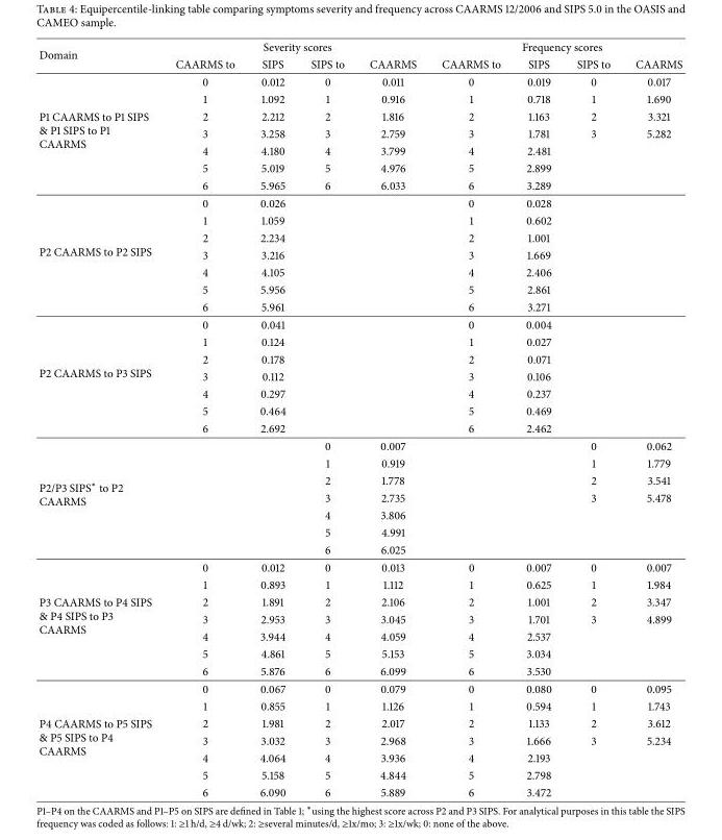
<table><thead><tr><td rowspan="2">Domain</td><td colspan="4">Severity scores</td><td colspan="4">Frequency scores</td></tr><tr><td>CAARMS to</td><td>SIPS</td><td>SIPS to</td><td>CAARMS</td><td>CAARMS to</td><td>SIPS</td><td>SIPS to</td><td>CAARMS</td></tr></thead><tbody><tr><td rowspan="7">P1 CAARMS to P1 SIPS &amp; P1 SIPS to P1 CAARMS</td><td>0</td><td>0.012</td><td>0</td><td>0.011</td><td>0</td><td>0.019</td><td>0</td><td>0.017</td></tr><tr><td>1</td><td>1.092</td><td>1</td><td>0.916</td><td>1</td><td>0.718</td><td>1</td><td>1.690</td></tr><tr><td>2</td><td>2.212</td><td>2</td><td>1.816</td><td>2</td><td>1.163</td><td>2</td><td>3.321</td></tr><tr><td>3</td><td>3.258</td><td>3</td><td>2.759</td><td>3</td><td>1.781</td><td>3</td><td>5.282</td></tr><tr><td>4</td><td>4.180</td><td>4</td><td>3.799</td><td>4</td><td>2.481</td><td></td><td></td></tr><tr><td>5</td><td>5.019</td><td>5</td><td>4.976</td><td>5</td><td>2.899</td><td></td><td></td></tr><tr><td>6</td><td>5.965</td><td>6</td><td>6.033</td><td>6</td><td>3.289</td><td></td><td></td></tr><tr><td rowspan="7">P2 CAARMS to P2 SIPS</td><td>0</td><td>0.026</td><td></td><td></td><td>0</td><td>0.028</td><td></td><td></td></tr><tr><td>1</td><td>1.059</td><td></td><td></td><td>1</td><td>0.602</td><td></td><td></td></tr><tr><td>2</td><td>2.234</td><td></td><td></td><td>2</td><td>1.001</td><td></td><td></td></tr><tr><td>3</td><td>3.216</td><td></td><td></td><td>3</td><td>1.669</td><td></td><td></td></tr><tr><td>4</td><td>4.105</td><td></td><td></td><td>4</td><td>2.406</td><td></td><td></td></tr><tr><td>5</td><td>5.956</td><td></td><td></td><td>5</td><td>2.861</td><td></td><td></td></tr><tr><td>6</td><td>5.961</td><td></td><td></td><td>6</td><td>3.271</td><td></td><td></td></tr><tr><td rowspan="7">P2 CAARMS to P3 SIPS</td><td>0</td><td>0.041</td><td></td><td></td><td>0</td><td>0.004</td><td></td><td></td></tr><tr><td>1</td><td>0.124</td><td></td><td></td><td>1</td><td>0.027</td><td></td><td></td></tr><tr><td>2</td><td>0.178</td><td></td><td></td><td>2</td><td>0.071</td><td></td><td></td></tr><tr><td>3</td><td>0.112</td><td></td><td></td><td>3</td><td>0.106</td><td></td><td></td></tr><tr><td>4</td><td>0.297</td><td></td><td></td><td>4</td><td>0.237</td><td></td><td></td></tr><tr><td>5</td><td>0.464</td><td></td><td></td><td>5</td><td>0.469</td><td></td><td></td></tr><tr><td>6</td><td>2.692</td><td></td><td></td><td>6</td><td>2.462</td><td></td><td></td></tr><tr><td rowspan="7">P2/P3 SIPS∗ to P2 CAARMS</td><td></td><td></td><td>0</td><td>0.007</td><td></td><td></td><td>0</td><td>0.062</td></tr><tr><td></td><td></td><td>1</td><td>0.919</td><td></td><td></td><td>1</td><td>1.779</td></tr><tr><td></td><td></td><td>2</td><td>1.778</td><td></td><td></td><td>2</td><td>3.541</td></tr><tr><td></td><td></td><td>3</td><td>2.735</td><td></td><td></td><td>3</td><td>5.478</td></tr><tr><td></td><td></td><td>4</td><td>3.806</td><td></td><td></td><td></td><td></td></tr><tr><td></td><td></td><td>5</td><td>4.991</td><td></td><td></td><td></td><td></td></tr><tr><td></td><td></td><td>6</td><td>6.025</td><td></td><td></td><td></td><td></td></tr><tr><td rowspan="7">P3 CAARMS to P4 SIPS &amp; P4 SIPS to P3 CAARMS</td><td>0</td><td>0.012</td><td>0</td><td>0.013</td><td>0</td><td>0.007</td><td>0</td><td>0.007</td></tr><tr><td>1</td><td>0.893</td><td>1</td><td>1.112</td><td>1</td><td>0.625</td><td>1</td><td>1.984</td></tr><tr><td>2</td><td>1.891</td><td>2</td><td>2.106</td><td>2</td><td>1.001</td><td>2</td><td>3.347</td></tr><tr><td>3</td><td>2.953</td><td>3</td><td>3.045</td><td>3</td><td>1.701</td><td>3</td><td>4.899</td></tr><tr><td>4</td><td>3.944</td><td>4</td><td>4.059</td><td>4</td><td>2.537</td><td></td><td></td></tr><tr><td>5</td><td>4.861</td><td>5</td><td>5.153</td><td>5</td><td>3.034</td><td></td><td></td></tr><tr><td>6</td><td>5.876</td><td>6</td><td>6.099</td><td>6</td><td>3.530</td><td></td><td></td></tr><tr><td rowspan="7">P4 CAARMS to P5 SIPS &amp; P5 SIPS to P4 CAARMS</td><td>0</td><td>0.067</td><td>0</td><td>0.079</td><td>0</td><td>0.080</td><td>0</td><td>0.095</td></tr><tr><td>1</td><td>0.855</td><td>1</td><td>1.126</td><td>1</td><td>0.594</td><td>1</td><td>1.743</td></tr><tr><td>2</td><td>1.981</td><td>2</td><td>2.017</td><td>2</td><td>1.133</td><td>2</td><td>3.612</td></tr><tr><td>3</td><td>3.032</td><td>3</td><td>2.968</td><td>3</td><td>1.666</td><td>3</td><td>5.234</td></tr><tr><td>4</td><td>4.064</td><td>4</td><td>3.936</td><td>4</td><td>2.193</td><td></td><td></td></tr><tr><td>5</td><td>5.158</td><td>5</td><td>4.844</td><td>5</td><td>2.798</td><td></td><td></td></tr><tr><td>6</td><td>6.090</td><td>6</td><td>5.889</td><td>6</td><td>3.472</td><td></td><td></td></tr></tbody></table>